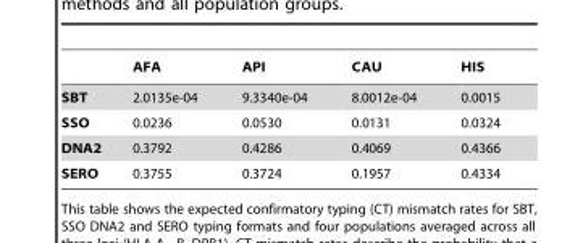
<table><thead><tr><td></td><td>AFA</td><td>API</td><td>CAU</td><td>HIS</td></tr></thead><tbody><tr><td>SBT</td><td>2.0135e-04</td><td>9.3340e-04</td><td>8.0012e-04</td><td>0.0015</td></tr><tr><td>SSO</td><td>0.0236</td><td>0.0530</td><td>0.0131</td><td>0.0324</td></tr><tr><td>DNA2</td><td>0.3792</td><td>0.4286</td><td>0.4069</td><td>0.4366</td></tr><tr><td>SERO</td><td>0.3755</td><td>0.3724</td><td>0.1957</td><td>0.4334</td></tr></tbody></table>